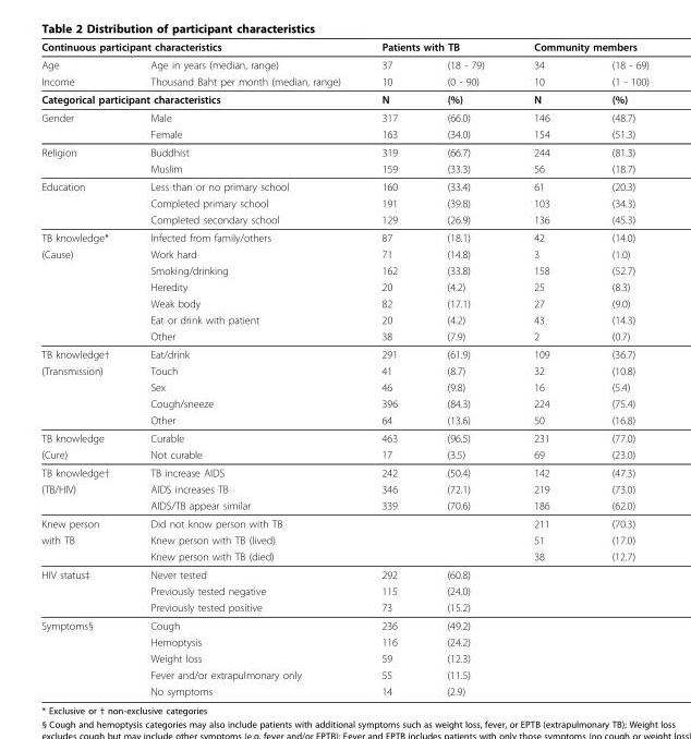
<table><thead><tr><td colspan="2">Continuous participant characteristics</td><td colspan="2">Patients with TB</td><td colspan="2">Community members</td></tr><tr><td>Age</td><td>Age in years (median, range)</td><td>37</td><td>(18 - 79)</td><td>34</td><td>(18 - 69)</td></tr></thead><tbody><tr><td>Income</td><td>Thousand Baht per month (median, range)</td><td>10</td><td>(0 - 90)</td><td>10</td><td>(1 - 100)</td></tr><tr><td colspan="2">Categorical participant characteristics</td><td>N</td><td>(%)</td><td>N</td><td>(%)</td></tr><tr><td rowspan="2">Gender</td><td>Male</td><td>317</td><td>(66.0)</td><td>146</td><td>(48.7)</td></tr><tr><td>Female</td><td>163</td><td>(34.0)</td><td>154</td><td>(51.3)</td></tr><tr><td rowspan="2">Religion</td><td>Buddhist</td><td>319</td><td>(66.7)</td><td>244</td><td>(81.3)</td></tr><tr><td>Muslim</td><td>159</td><td>(33.3)</td><td>56</td><td>(18.7)</td></tr><tr><td rowspan="3">Education</td><td>Less than or no primary school</td><td>160</td><td>(33.4)</td><td>61</td><td>(20.3)</td></tr><tr><td>Completed primary school</td><td>191</td><td>(39.8)</td><td>103</td><td>(34.3)</td></tr><tr><td>Completed secondary school</td><td>129</td><td>(26.9)</td><td>136</td><td>(45.3)</td></tr><tr><td>TB knowledge*</td><td>Infected from family/others</td><td>87</td><td>(18.1)</td><td>42</td><td>(14.0)</td></tr><tr><td rowspan="6">(Cause)</td><td>Work hard</td><td>71</td><td>(14.8)</td><td>3</td><td>(1.0)</td></tr><tr><td>Smoking/drinking</td><td>162</td><td>(33.8)</td><td>158</td><td>(52.7)</td></tr><tr><td>Heredity</td><td>20</td><td>(4.2)</td><td>25</td><td>(8.3)</td></tr><tr><td>Weak body</td><td>82</td><td>(17.1)</td><td>27</td><td>(9.0)</td></tr><tr><td>Eat or drink with patient</td><td>20</td><td>(4.2)</td><td>43</td><td>(14.3)</td></tr><tr><td>Other</td><td>38</td><td>(7.9)</td><td>2</td><td>(0.7)</td></tr><tr><td>TB knowledge†</td><td>Eat/drink</td><td>291</td><td>(61.9)</td><td>109</td><td>(36.7)</td></tr><tr><td rowspan="4">(Transmission)</td><td>Touch</td><td>41</td><td>(8.7)</td><td>32</td><td>(10.8)</td></tr><tr><td>Sex</td><td>46</td><td>(9.8)</td><td>16</td><td>(5.4)</td></tr><tr><td>Cough/sneeze</td><td>396</td><td>(84.3)</td><td>224</td><td>(75.4)</td></tr><tr><td>Other</td><td>64</td><td>(13.6)</td><td>50</td><td>(16.8)</td></tr><tr><td>TB knowledge</td><td>Curable</td><td>463</td><td>(96.5)</td><td>231</td><td>(77.0)</td></tr><tr><td>(Cure)</td><td>Not curable</td><td>17</td><td>(3.5)</td><td>69</td><td>(23.0)</td></tr><tr><td>TB knowledge†</td><td>TB increase AIDS</td><td>242</td><td>(50.4)</td><td>142</td><td>(47.3)</td></tr><tr><td rowspan="2">(TB/HIV)</td><td>AIDS increases TB</td><td>346</td><td>(72.1)</td><td>219</td><td>(73.0)</td></tr><tr><td>AIDS/TB appear similar</td><td>339</td><td>(70.6)</td><td>186</td><td>(62.0)</td></tr><tr><td>Knew person</td><td>Did not know person with TB</td><td></td><td></td><td>211</td><td>(70.3)</td></tr><tr><td rowspan="2">with TB</td><td>Knew person with TB (lived)</td><td></td><td></td><td>51</td><td>(17.0)</td></tr><tr><td>Knew person with TB (died)</td><td></td><td></td><td>38</td><td>(12.7)</td></tr><tr><td rowspan="3">HIV status‡</td><td>Never tested</td><td>292</td><td>(60.8)</td><td></td><td></td></tr><tr><td>Previously tested negative</td><td>115</td><td>(24.0)</td><td></td><td></td></tr><tr><td>Previously tested positive</td><td>73</td><td>(15.2)</td><td></td><td></td></tr><tr><td rowspan="5">Symptoms§</td><td>Cough</td><td>236</td><td>(49.2)</td><td></td><td></td></tr><tr><td>Hemoptysis</td><td>116</td><td>(24.2)</td><td></td><td></td></tr><tr><td>Weight loss</td><td>59</td><td>(12.3)</td><td></td><td></td></tr><tr><td>Fever and/or extrapulmonary only</td><td>55</td><td>(11.5)</td><td></td><td></td></tr><tr><td>No symptoms</td><td>14</td><td>(2.9)</td><td></td><td></td></tr></tbody></table>